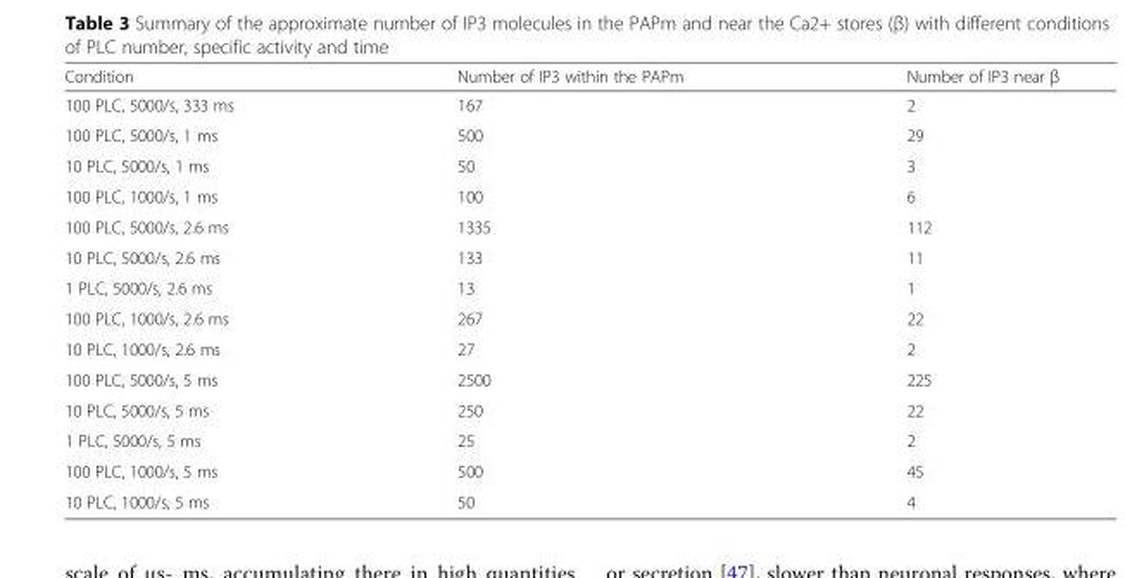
<table><thead><tr><td>Condition</td><td>Number of IP3 within the PAPm</td><td>Number of IP3 near β</td></tr></thead><tbody><tr><td>100 PLC, 5000/s, 333 ms</td><td>167</td><td>2</td></tr><tr><td>100 PLC, 5000/s, 1 ms</td><td>500</td><td>29</td></tr><tr><td>10 PLC, 5000/s, 1 ms</td><td>50</td><td>3</td></tr><tr><td>100 PLC, 1000/s, 1 ms</td><td>100</td><td>6</td></tr><tr><td>100 PLC, 5000/s, 2.6 ms</td><td>1335</td><td>112</td></tr><tr><td>10 PLC, 5000/s, 2.6 ms</td><td>133</td><td>11</td></tr><tr><td>1 PLC, 5000/s, 2.6 ms</td><td>13</td><td>1</td></tr><tr><td>100 PLC, 1000/s, 2.6 ms</td><td>267</td><td>22</td></tr><tr><td>10 PLC, 1000/s, 2.6 ms</td><td>27</td><td>2</td></tr><tr><td>100 PLC, 5000/s, 5 ms</td><td>2500</td><td>225</td></tr><tr><td>10 PLC, 5000/s, 5 ms</td><td>250</td><td>22</td></tr><tr><td>1 PLC, 5000/s, 5 ms</td><td>25</td><td>2</td></tr><tr><td>100 PLC, 1000/s, 5 ms</td><td>500</td><td>45</td></tr><tr><td>10 PLC, 1000/s, 5 ms</td><td>50</td><td>4</td></tr></tbody></table>